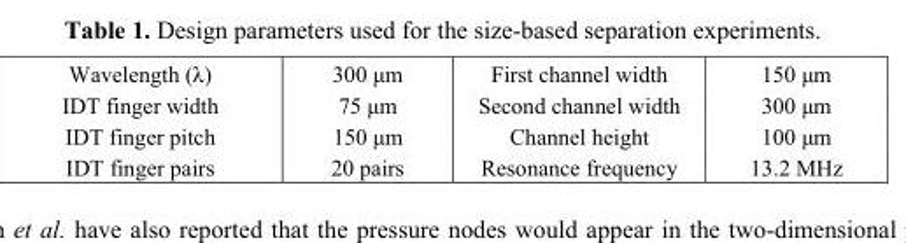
<table><tbody><tr><td>Wavelength (λ)</td><td>300 μm</td><td>First channel width</td><td>150 μm</td></tr><tr><td>IDT finger width</td><td>75 μm</td><td>Second channel width</td><td>300 μm</td></tr><tr><td>IDT finger pitch</td><td>150 μm</td><td>Channel height</td><td>100 μm</td></tr><tr><td>IDT finger pairs</td><td>20 pairs</td><td>Resonance frequency</td><td>13.2 MHz</td></tr></tbody></table>